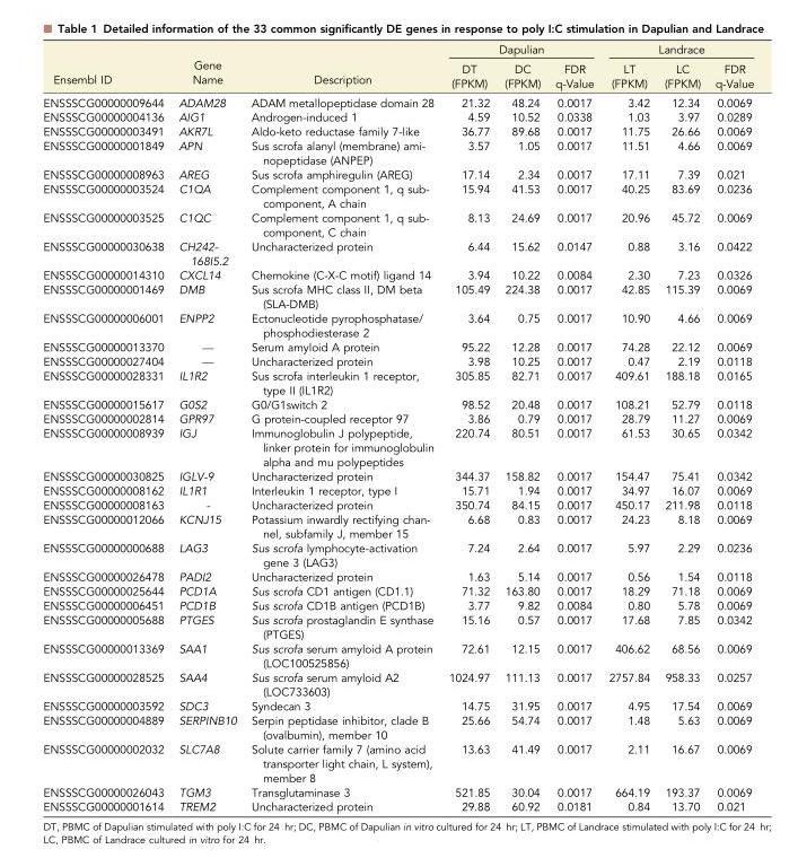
<table><thead><tr><td rowspan="2">Ensembl ID</td><td rowspan="2">Gene Name</td><td rowspan="2">Description</td><td colspan="3">Dapulian</td><td colspan="3">Landrace</td></tr><tr><td>DT (FPKM)</td><td>DC (FPKM)</td><td>FDR q-Value</td><td>LT (FPKM)</td><td>LC (FPKM)</td><td>FDR q-Value</td></tr></thead><tbody><tr><td>ENSSSCG00000009644</td><td>ADAM28</td><td>ADAM metallopeptidase domain 28</td><td>21.32</td><td>48.24</td><td>0.0017</td><td>3.42</td><td>12.34</td><td>0.0069</td></tr><tr><td>ENSSSCG00000004136</td><td>AIG1</td><td>Androgen-induced 1</td><td>4.59</td><td>10.52</td><td>0.0338</td><td>1.03</td><td>3.97</td><td>0.0289</td></tr><tr><td>ENSSSCG00000003491</td><td>AKR7L</td><td>Aldo-keto reductase family 7-like</td><td>36.77</td><td>89.68</td><td>0.0017</td><td>11.75</td><td>26.66</td><td>0.0069</td></tr><tr><td>ENSSSCG00000001849</td><td>APN</td><td>Sus scrofa alanyl (membrane) ami- nopeptidase (ANPEP)</td><td>3.57</td><td>1.05</td><td>0.0017</td><td>11.51</td><td>4.66</td><td>0.0069</td></tr><tr><td>ENSSSCG00000008963</td><td>AREG</td><td>Sus scrofa amphiregulin (AREG)</td><td>17.14</td><td>2.34</td><td>0.0017</td><td>17.11</td><td>7.39</td><td>0.021</td></tr><tr><td>ENSSSCG00000003524</td><td>C1QA</td><td>Complement component 1, q sub- component, A chain</td><td>15.94</td><td>41.53</td><td>0.0017</td><td>40.25</td><td>83.69</td><td>0.0236</td></tr><tr><td>ENSSSCG00000003525</td><td>C1QC</td><td>Complement component 1, q sub- component, C chain</td><td>8.13</td><td>24.69</td><td>0.0017</td><td>20.96</td><td>45.72</td><td>0.0069</td></tr><tr><td>ENSSSCG00000030638</td><td>CH242- 168I5.2</td><td>Uncharacterized protein</td><td>6.44</td><td>15.62</td><td>0.0147</td><td>0.88</td><td>3.16</td><td>0.0422</td></tr><tr><td>ENSSSCG00000014310</td><td>CXCL14</td><td>Chemokine (C-X-C motif) ligand 14</td><td>3.94</td><td>10.22</td><td>0.0084</td><td>2.30</td><td>7.23</td><td>0.0326</td></tr><tr><td>ENSSSCG00000001469</td><td>DMB</td><td>Sus scrofa MHC class II, DM beta (SLA-DMB)</td><td>105.49</td><td>224.38</td><td>0.0017</td><td>42.85</td><td>115.39</td><td>0.0069</td></tr><tr><td>ENSSSCG00000006001</td><td>ENPP2</td><td>Ectonucleotide pyrophosphatase/ phosphodiesterase 2</td><td>3.64</td><td>0.75</td><td>0.0017</td><td>10.90</td><td>4.66</td><td>0.0069</td></tr><tr><td>ENSSSCG00000013370</td><td>—</td><td>Serum amyloid A protein</td><td>95.22</td><td>12.28</td><td>0.0017</td><td>74.28</td><td>22.12</td><td>0.0069</td></tr><tr><td>ENSSSCG00000027404</td><td>—</td><td>Uncharacterized protein</td><td>3.98</td><td>10.25</td><td>0.0017</td><td>0.47</td><td>2.19</td><td>0.0118</td></tr><tr><td>ENSSSCG00000028331</td><td>IL1R2</td><td>Sus scrofa interleukin 1 receptor, type II (IL1R2)</td><td>305.85</td><td>82.71</td><td>0.0017</td><td>409.61</td><td>188.18</td><td>0.0165</td></tr><tr><td>ENSSSCG00000015617</td><td>G0S2</td><td>G0/G1switch 2</td><td>98.52</td><td>20.48</td><td>0.0017</td><td>108.21</td><td>52.79</td><td>0.0118</td></tr><tr><td>ENSSSCG00000002814</td><td>GPR97</td><td>G protein-coupled receptor 97</td><td>3.86</td><td>0.79</td><td>0.0017</td><td>28.79</td><td>11.27</td><td>0.0069</td></tr><tr><td>ENSSSCG00000008939</td><td>IGJ</td><td>Immunoglobulin J polypeptide, linker protein for immunoglobulin alpha and mu polypeptides</td><td>220.74</td><td>80.51</td><td>0.0017</td><td>61.53</td><td>30.65</td><td>0.0342</td></tr><tr><td>ENSSSCG00000030825</td><td>IGLV-9</td><td>Uncharacterized protein</td><td>344.37</td><td>158.82</td><td>0.0017</td><td>154.47</td><td>75.41</td><td>0.0342</td></tr><tr><td>ENSSSCG00000008162</td><td>IL1R1</td><td>Interleukin 1 receptor, type I</td><td>15.71</td><td>1.94</td><td>0.0017</td><td>34.97</td><td>16.07</td><td>0.0069</td></tr><tr><td>ENSSSCG00000008163</td><td>-</td><td>Uncharacterized protein</td><td>350.74</td><td>84.15</td><td>0.0017</td><td>450.17</td><td>211.98</td><td>0.0118</td></tr><tr><td>ENSSSCG00000012066</td><td>KCNJ15</td><td>Potassium inwardly rectifying chan- nel, subfamily J, member 15</td><td>6.68</td><td>0.83</td><td>0.0017</td><td>24.23</td><td>8.18</td><td>0.0069</td></tr><tr><td>ENSSSCG00000000688</td><td>LAG3</td><td>Sus scrofa lymphocyte-activation gene 3 (LAG3)</td><td>7.24</td><td>2.64</td><td>0.0017</td><td>5.97</td><td>2.29</td><td>0.0236</td></tr><tr><td>ENSSSCG00000026478</td><td>PADI2</td><td>Uncharacterized protein</td><td>1.63</td><td>5.14</td><td>0.0017</td><td>0.56</td><td>1.54</td><td>0.0118</td></tr><tr><td>ENSSSCG00000025644</td><td>PCD1A</td><td>Sus scrofa CD1 antigen (CD1.1)</td><td>71.32</td><td>163.80</td><td>0.0017</td><td>18.29</td><td>71.18</td><td>0.0069</td></tr><tr><td>ENSSSCG00000006451</td><td>PCD1B</td><td>Sus scrofa CD1B antigen (PCD1B)</td><td>3.77</td><td>9.82</td><td>0.0084</td><td>0.80</td><td>5.78</td><td>0.0069</td></tr><tr><td>ENSSSCG00000005688</td><td>PTGES</td><td>Sus scrofa prostaglandin E synthase (PTGES)</td><td>15.16</td><td>0.57</td><td>0.0017</td><td>17.68</td><td>7.85</td><td>0.0342</td></tr><tr><td>ENSSSCG00000013369</td><td>SAA1</td><td>Sus scrofa serum amyloid A protein (LOC100525856)</td><td>72.61</td><td>12.15</td><td>0.0017</td><td>406.62</td><td>68.56</td><td>0.0069</td></tr><tr><td>ENSSSCG00000028525</td><td>SAA4</td><td>Sus scrofa serum amyloid A2 (LOC733603)</td><td>1024.97</td><td>111.13</td><td>0.0017</td><td>2757.84</td><td>958.33</td><td>0.0257</td></tr><tr><td>ENSSSCG00000003592</td><td>SDC3</td><td>Syndecan 3</td><td>14.75</td><td>31.95</td><td>0.0017</td><td>4.95</td><td>17.54</td><td>0.0069</td></tr><tr><td>ENSSSCG00000004889</td><td>SERPINB10</td><td>Serpin peptidase inhibitor, clade B (ovalbumin), member 10</td><td>25.66</td><td>54.74</td><td>0.0017</td><td>1.48</td><td>5.63</td><td>0.0069</td></tr><tr><td>ENSSSCG00000002032</td><td>SLC7A8</td><td>Solute carrier family 7 (amino acid transporter light chain, L system), member 8</td><td>13.63</td><td>41.49</td><td>0.0017</td><td>2.11</td><td>16.67</td><td>0.0069</td></tr><tr><td>ENSSSCG00000026043</td><td>TGM3</td><td>Transglutaminase 3</td><td>521.85</td><td>30.04</td><td>0.0017</td><td>664.19</td><td>193.37</td><td>0.0069</td></tr><tr><td>ENSSSCG00000001614</td><td>TREM2</td><td>Uncharacterized protein</td><td>29.88</td><td>60.92</td><td>0.0181</td><td>0.84</td><td>13.70</td><td>0.021</td></tr></tbody></table>